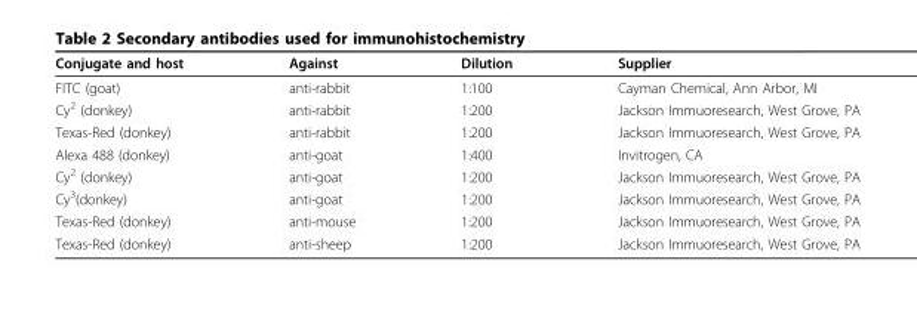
<table><thead><tr><td>Conjugate and host</td><td>Against</td><td>Dilution</td><td>Supplier</td></tr></thead><tbody><tr><td>FITC (goat)</td><td>anti-rabbit</td><td>1:100</td><td>Cayman Chemical, Ann Arbor, MI</td></tr><tr><td>Cy<sup>2</sup> (donkey)</td><td>anti-rabbit</td><td>1:200</td><td>Jackson Immuoresearch, West Grove, PA</td></tr><tr><td>Texas-Red (donkey)</td><td>anti-rabbit</td><td>1:200</td><td>Jackson Immuoresearch, West Grove, PA</td></tr><tr><td>Alexa 488 (donkey)</td><td>anti-goat</td><td>1:400</td><td>Invitrogen, CA</td></tr><tr><td>Cy<sup>2</sup> (donkey)</td><td>anti-goat</td><td>1:200</td><td>Jackson Immuoresearch, West Grove, PA</td></tr><tr><td>Cy<sup>3</sup>(donkey)</td><td>anti-goat</td><td>1:200</td><td>Jackson Immuoresearch, West Grove, PA</td></tr><tr><td>Texas-Red (donkey)</td><td>anti-mouse</td><td>1:200</td><td>Jackson Immuoresearch, West Grove, PA</td></tr><tr><td>Texas-Red (donkey)</td><td>anti-sheep</td><td>1:200</td><td>Jackson Immuoresearch, West Grove, PA</td></tr></tbody></table>